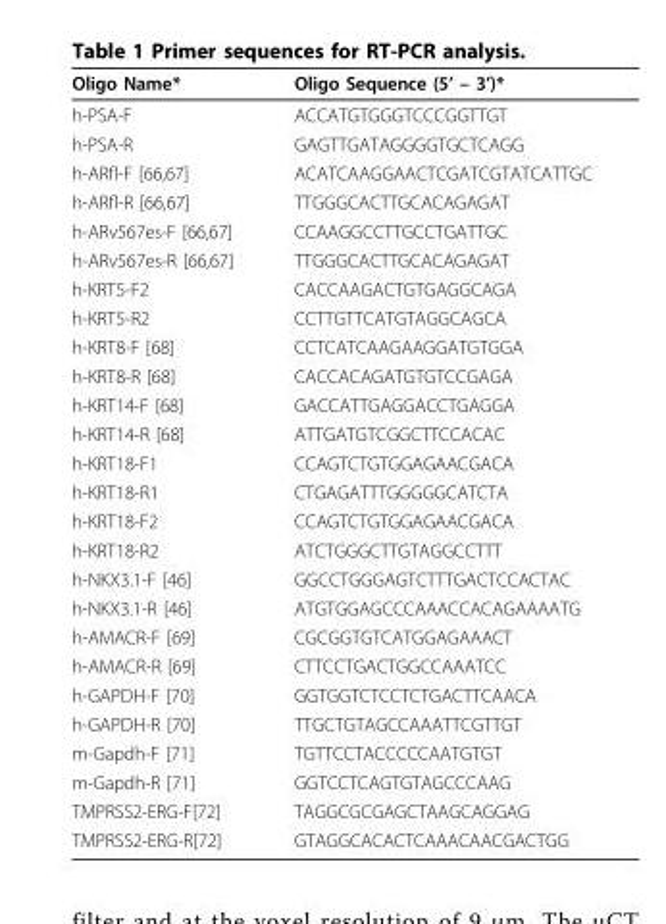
<table><thead><tr><td>Oligo Name*</td><td>Oligo Sequence (5’ – 3’)*</td></tr></thead><tbody><tr><td>h-PSA-F</td><td>ACCATGTGGGTCCCGGTTGT</td></tr><tr><td>h-PSA-R</td><td>GAGTTGATAGGGGTGCTCAGG</td></tr><tr><td>h-ARfl-F [66,67]</td><td>ACATCAAGGAACTCGATCGTATCATTGC</td></tr><tr><td>h-ARfl-R [66,67]</td><td>TTGGGCACTTGCACAGAGAT</td></tr><tr><td>h-ARv567es-F [66,67]</td><td>CCAAGGCCTTGCCTGATTGC</td></tr><tr><td>h-ARv567es-R [66,67]</td><td>TTGGGCACTTGCACAGAGAT</td></tr><tr><td>h-KRT5-F2</td><td>CACCAAGACTGTGAGGCAGA</td></tr><tr><td>h-KRT5-R2</td><td>CCTTGTTCATGTAGGCAGCA</td></tr><tr><td>h-KRT8-F [68]</td><td>CCTCATCAAGAAGGATGTGGA</td></tr><tr><td>h-KRT8-R [68]</td><td>CACCACAGATGTGTCCGAGA</td></tr><tr><td>h-KRT14-F [68]</td><td>GACCATTGAGGACCTGAGGA</td></tr><tr><td>h-KRT14-R [68]</td><td>ATTGATGTCGGCTTCCACAC</td></tr><tr><td>h-KRT18-F1</td><td>CCAGTCTGTGGAGAACGACA</td></tr><tr><td>h-KRT18-R1</td><td>CTGAGATTTGGGGGCATCTA</td></tr><tr><td>h-KRT18-F2</td><td>CCAGTCTGTGGAGAACGACA</td></tr><tr><td>h-KRT18-R2</td><td>ATCTGGGCTTGTAGGCCTTT</td></tr><tr><td>h-NKX3.1-F [46]</td><td>GGCCTGGGAGTCTTTGACTCCACTAC</td></tr><tr><td>h-NKX3.1-R [46]</td><td>ATGTGGAGCCCAAACCACAGAAAATG</td></tr><tr><td>h-AMACR-F [69]</td><td>CGCGGTGTCATGGAGAAACT</td></tr><tr><td>h-AMACR-R [69]</td><td>CTTCCTGACTGGCCAAATCC</td></tr><tr><td>h-GAPDH-F [70]</td><td>GGTGGTCTCCTCTGACTTCAACA</td></tr><tr><td>h-GAPDH-R [70]</td><td>TTGCTGTAGCCAAATTCGTTGT</td></tr><tr><td>m-Gapdh-F [71]</td><td>TGTTCCTACCCCCAATGTGT</td></tr><tr><td>m-Gapdh-R [71]</td><td>GGTCCTCAGTGTAGCCCAAG</td></tr><tr><td>TMPRSS2-ERG-F[72]</td><td>TAGGCGCGAGCTAAGCAGGAG</td></tr><tr><td>TMPRSS2-ERG-R[72]</td><td>GTAGGCACACTCAAACAACGACTGG</td></tr></tbody></table>